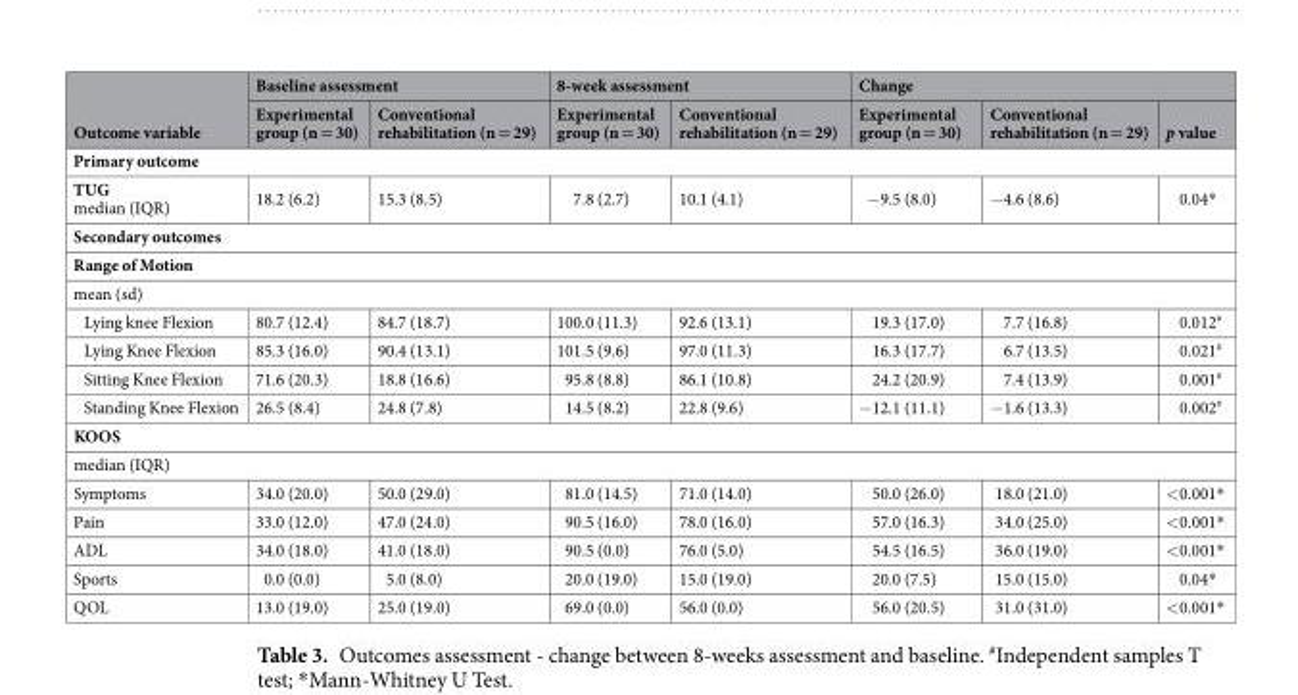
<table><thead><tr><td rowspan="2">Outcome variable</td><td colspan="2">Baseline assessment</td><td colspan="2">8-week assessment</td><td colspan="3">Change</td></tr><tr><td>Experimental group (n = 30)</td><td>Conventional rehabilitation (n = 29)</td><td>Experimental group (n = 30)</td><td>Conventional rehabilitation (n = 29)</td><td>Experimental group (n = 30)</td><td>Conventional rehabilitation (n = 29)</td><td>p value</td></tr></thead><tbody><tr><td colspan="8">Primary outcome</td></tr><tr><td>TUG median (IQR)</td><td>18.2 (6.2)</td><td>15.3 (8.5)</td><td>7.8 (2.7)</td><td>10.1 (4.1)</td><td>−9.5 (8.0)</td><td>−4.6 (8.6)</td><td>0.04*</td></tr><tr><td colspan="8">Secondary outcomes</td></tr><tr><td colspan="8">Range of Motion</td></tr><tr><td colspan="8">mean (sd)</td></tr><tr><td>Lying knee Flexion</td><td>80.7 (12.4)</td><td>84.7 (18.7)</td><td>100.0 (11.3)</td><td>92.6 (13.1)</td><td>19.3 (17.0)</td><td>7.7 (16.8)</td><td>0.012<sup>#</sup></td></tr><tr><td>Lying Knee Flexion</td><td>85.3 (16.0)</td><td>90.4 (13.1)</td><td>101.5 (9.6)</td><td>97.0 (11.3)</td><td>16.3 (17.7)</td><td>6.7 (13.5)</td><td>0.021<sup>#</sup></td></tr><tr><td>Sitting Knee Flexion</td><td>71.6 (20.3)</td><td>18.8 (16.6)</td><td>95.8 (8.8)</td><td>86.1 (10.8)</td><td>24.2 (20.9)</td><td>7.4 (13.9)</td><td>0.001<sup>#</sup></td></tr><tr><td>Standing Knee Flexion</td><td>26.5 (8.4)</td><td>24.8 (7.8)</td><td>14.5 (8.2)</td><td>22.8 (9.6)</td><td>−12.1 (11.1)</td><td>−1.6 (13.3)</td><td>0.002<sup>#</sup></td></tr><tr><td colspan="8">KOOS</td></tr><tr><td colspan="8">median (IQR)</td></tr><tr><td>Symptoms</td><td>34.0 (20.0)</td><td>50.0 (29.0)</td><td>81.0 (14.5)</td><td>71.0 (14.0)</td><td>50.0 (26.0)</td><td>18.0 (21.0)</td><td>&lt;0.001*</td></tr><tr><td>Pain</td><td>33.0 (12.0)</td><td>47.0 (24.0)</td><td>90.5 (16.0)</td><td>78.0 (16.0)</td><td>57.0 (16.3)</td><td>34.0 (25.0)</td><td>&lt;0.001*</td></tr><tr><td>ADL</td><td>34.0 (18.0)</td><td>41.0 (18.0)</td><td>90.5 (0.0)</td><td>76.0 (5.0)</td><td>54.5 (16.5)</td><td>36.0 (19.0)</td><td>&lt;0.001*</td></tr><tr><td>Sports</td><td>0.0 (0.0)</td><td>5.0 (8.0)</td><td>20.0 (19.0)</td><td>15.0 (19.0)</td><td>20.0 (7.5)</td><td>15.0 (15.0)</td><td>0.04*</td></tr><tr><td>QOL</td><td>13.0 (19.0)</td><td>25.0 (19.0)</td><td>69.0 (0.0)</td><td>56.0 (0.0)</td><td>56.0 (20.5)</td><td>31.0 (31.0)</td><td>&lt;0.001*</td></tr></tbody></table>